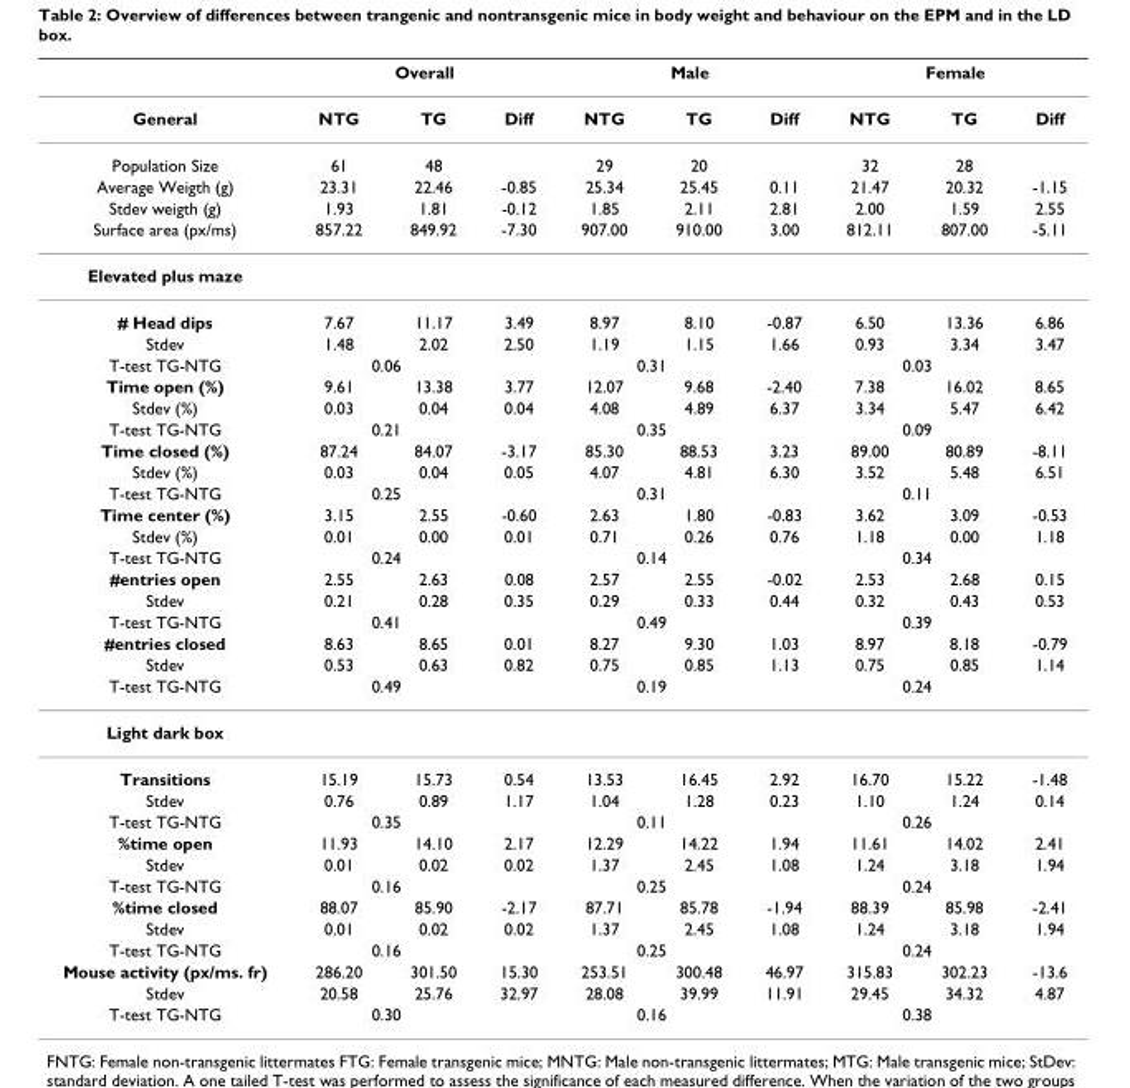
<table><thead><tr><td rowspan="2">General</td><td colspan="3">Overall</td><td colspan="3">Male</td><td colspan="3">Female</td></tr><tr><td>NTG</td><td>TG</td><td>Diff</td><td>NTG</td><td>TG</td><td>Diff</td><td>NTG</td><td>TG</td><td>Diff</td></tr></thead><tbody><tr><td>Population Size</td><td>61</td><td>48</td><td></td><td>29</td><td>20</td><td></td><td>32</td><td>28</td><td></td></tr><tr><td>Average Weigth (g)</td><td>23.31</td><td>22.46</td><td>-0.85</td><td>25.34</td><td>25.45</td><td>0.11</td><td>21.47</td><td>20.32</td><td>-1.15</td></tr><tr><td>Stdev weigth (g)</td><td>1.93</td><td>1.81</td><td>-0.12</td><td>1.85</td><td>2.11</td><td>2.81</td><td>2.00</td><td>1.59</td><td>2.55</td></tr><tr><td>Surface area (px/ms)</td><td>857.22</td><td>849.92</td><td>-7.30</td><td>907.00</td><td>910.00</td><td>3.00</td><td>812.11</td><td>807.00</td><td>-5.11</td></tr><tr><td colspan="10">Elevated plus maze</td></tr><tr><td># Head dips</td><td>7.67</td><td>11.17</td><td>3.49</td><td>8.97</td><td>8.10</td><td>-0.87</td><td>6.50</td><td>13.36</td><td>6.86</td></tr><tr><td>Stdev</td><td>1.48</td><td>2.02</td><td>2.50</td><td>1.19</td><td>1.15</td><td>1.66</td><td>0.93</td><td>3.34</td><td>3.47</td></tr><tr><td>T-test TG-NTG</td><td colspan="2">0.06</td><td></td><td colspan="2">0.31</td><td></td><td colspan="2">0.03</td><td></td></tr><tr><td>Time open (%)</td><td>9.61</td><td>13.38</td><td>3.77</td><td>12.07</td><td>9.68</td><td>-2.40</td><td>7.38</td><td>16.02</td><td>8.65</td></tr><tr><td>Stdev (%)</td><td>0.03</td><td>0.04</td><td>0.04</td><td>4.08</td><td>4.89</td><td>6.37</td><td>3.34</td><td>5.47</td><td>6.42</td></tr><tr><td>T-test TG-NTG</td><td colspan="2">0.21</td><td></td><td colspan="2">0.35</td><td></td><td colspan="2">0.09</td><td></td></tr><tr><td>Time closed (%)</td><td>87.24</td><td>84.07</td><td>-3.17</td><td>85.30</td><td>88.53</td><td>3.23</td><td>89.00</td><td>80.89</td><td>-8.11</td></tr><tr><td>Stdev (%)</td><td>0.03</td><td>0.04</td><td>0.05</td><td>4.07</td><td>4.81</td><td>6.30</td><td>3.52</td><td>5.48</td><td>6.51</td></tr><tr><td>T-test TG-NTG</td><td colspan="2">0.25</td><td></td><td colspan="2">0.31</td><td></td><td colspan="2">0.11</td><td></td></tr><tr><td>Time center (%)</td><td>3.15</td><td>2.55</td><td>-0.60</td><td>2.63</td><td>1.80</td><td>-0.83</td><td>3.62</td><td>3.09</td><td>-0.53</td></tr><tr><td>Stdev (%)</td><td>0.01</td><td>0.00</td><td>0.01</td><td>0.71</td><td>0.26</td><td>0.76</td><td>1.18</td><td>0.00</td><td>1.18</td></tr><tr><td>T-test TG-NTG</td><td colspan="2">0.24</td><td></td><td colspan="2">0.14</td><td></td><td colspan="2">0.34</td><td></td></tr><tr><td>#entries open</td><td>2.55</td><td>2.63</td><td>0.08</td><td>2.57</td><td>2.55</td><td>-0.02</td><td>2.53</td><td>2.68</td><td>0.15</td></tr><tr><td>Stdev</td><td>0.21</td><td>0.28</td><td>0.35</td><td>0.29</td><td>0.33</td><td>0.44</td><td>0.32</td><td>0.43</td><td>0.53</td></tr><tr><td>T-test TG-NTG</td><td colspan="2">0.41</td><td></td><td colspan="2">0.49</td><td></td><td colspan="2">0.39</td><td></td></tr><tr><td>#entries closed</td><td>8.63</td><td>8.65</td><td>0.01</td><td>8.27</td><td>9.30</td><td>1.03</td><td>8.97</td><td>8.18</td><td>-0.79</td></tr><tr><td>Stdev</td><td>0.53</td><td>0.63</td><td>0.82</td><td>0.75</td><td>0.85</td><td>1.13</td><td>0.75</td><td>0.85</td><td>1.14</td></tr><tr><td>T-test TG-NTG</td><td colspan="2">0.49</td><td></td><td colspan="2">0.19</td><td></td><td colspan="2">0.24</td><td></td></tr><tr><td colspan="10">Light dark box</td></tr><tr><td>Transitions</td><td>15.19</td><td>15.73</td><td>0.54</td><td>13.53</td><td>16.45</td><td>2.92</td><td>16.70</td><td>15.22</td><td>-1.48</td></tr><tr><td>Stdev</td><td>0.76</td><td>0.89</td><td>1.17</td><td>1.04</td><td>1.28</td><td>0.23</td><td>1.10</td><td>1.24</td><td>0.14</td></tr><tr><td>T-test TG-NTG</td><td colspan="2">0.35</td><td></td><td colspan="2">0.11</td><td></td><td colspan="2">0.26</td><td></td></tr><tr><td>%time open</td><td>11.93</td><td>14.10</td><td>2.17</td><td>12.29</td><td>14.22</td><td>1.94</td><td>11.61</td><td>14.02</td><td>2.41</td></tr><tr><td>Stdev</td><td>0.01</td><td>0.02</td><td>0.02</td><td>1.37</td><td>2.45</td><td>1.08</td><td>1.24</td><td>3.18</td><td>1.94</td></tr><tr><td>T-test TG-NTG</td><td colspan="2">0.16</td><td></td><td colspan="2">0.25</td><td></td><td colspan="2">0.24</td><td></td></tr><tr><td>%time closed</td><td>88.07</td><td>85.90</td><td>-2.17</td><td>87.71</td><td>85.78</td><td>-1.94</td><td>88.39</td><td>85.98</td><td>-2.41</td></tr><tr><td>Stdev</td><td>0.01</td><td>0.02</td><td>0.02</td><td>1.37</td><td>2.45</td><td>1.08</td><td>1.24</td><td>3.18</td><td>1.94</td></tr><tr><td>T-test TG-NTG</td><td colspan="2">0.16</td><td></td><td colspan="2">0.25</td><td></td><td colspan="2">0.24</td><td></td></tr><tr><td>Mouse activity (px/ms. fr)</td><td>286.20</td><td>301.50</td><td>15.30</td><td>253.51</td><td>300.48</td><td>46.97</td><td>315.83</td><td>302.23</td><td>-13.6</td></tr><tr><td>Stdev</td><td>20.58</td><td>25.76</td><td>32.97</td><td>28.08</td><td>39.99</td><td>11.91</td><td>29.45</td><td>34.32</td><td>4.87</td></tr><tr><td>T-test TG-NTG</td><td colspan="2">0.30</td><td></td><td colspan="2">0.16</td><td></td><td colspan="2">0.38</td><td></td></tr></tbody></table>